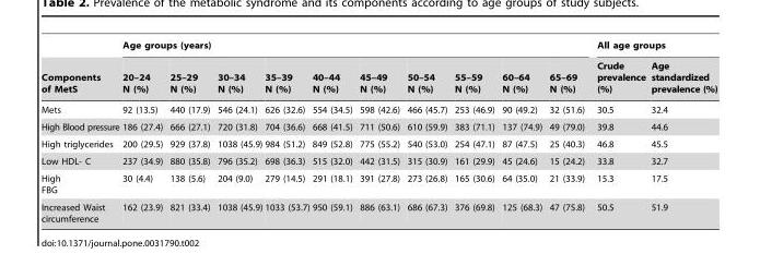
<table><thead><tr><td rowspan="2">Components of MetS</td><td colspan="10">Age groups (years)</td><td colspan="2">All age groups</td></tr><tr><td>20–24 N (%)</td><td>25–29 N (%)</td><td>30–34 N (%)</td><td>35–39 N (%)</td><td>40–44 N (%)</td><td>45–49 N (%)</td><td>50–54 N (%)</td><td>55–59 N (%)</td><td>60–64 N (%)</td><td>65–69 N (%)</td><td>Crude prevalence (%)</td><td>Age standardized prevalence (%)</td></tr></thead><tbody><tr><td>Mets</td><td>92 (13.5)</td><td>440 (17.9)</td><td>546 (24.1)</td><td>626 (32.6)</td><td>554 (34.5)</td><td>598 (42.6)</td><td>466 (45.7)</td><td>253 (46.9)</td><td>90 (49.2)</td><td>32 (51.6)</td><td>30.5</td><td>32.4</td></tr><tr><td>High Blood pressure</td><td>186 (27.4)</td><td>666 (27.1)</td><td>720 (31.8)</td><td>704 (36.6)</td><td>668 (41.5)</td><td>711 (50.6)</td><td>610 (59.9)</td><td>383 (71.1)</td><td>137 (74.9)</td><td>49 (79.0)</td><td>39.8</td><td>44.6</td></tr><tr><td>High triglycerides</td><td>200 (29.5)</td><td>929 (37.8)</td><td>1038 (45.9)</td><td>984 (51.2)</td><td>849 (52.8)</td><td>775 (55.2)</td><td>540 (53.0)</td><td>254 (47.1)</td><td>87 (47.5)</td><td>25 (40.3)</td><td>46.8</td><td>45.5</td></tr><tr><td>Low HDL- C</td><td>237 (34.9)</td><td>880 (35.8)</td><td>796 (35.2)</td><td>698 (36.3)</td><td>515 (32.0)</td><td>442 (31.5)</td><td>315 (30.9)</td><td>161 (29.9)</td><td>45 (24.6)</td><td>15 (24.2)</td><td>33.8</td><td>32.7</td></tr><tr><td>High FBG</td><td>30 (4.4)</td><td>138 (5.6)</td><td>204 (9.0)</td><td>279 (14.5)</td><td>291 (18.1)</td><td>391 (27.8)</td><td>273 (26.8)</td><td>165 (30.6)</td><td>64 (35.0)</td><td>21 (33.9)</td><td>15.3</td><td>17.5</td></tr><tr><td>Increased Waist circumference</td><td>162 (23.9)</td><td>821 (33.4)</td><td>1038 (45.9)</td><td>1033 (53.7)</td><td>950 (59.1)</td><td>886 (63.1)</td><td>686 (67.3)</td><td>376 (69.8)</td><td>125 (68.3)</td><td>47 (75.8)</td><td>50.5</td><td>51.9</td></tr></tbody></table>